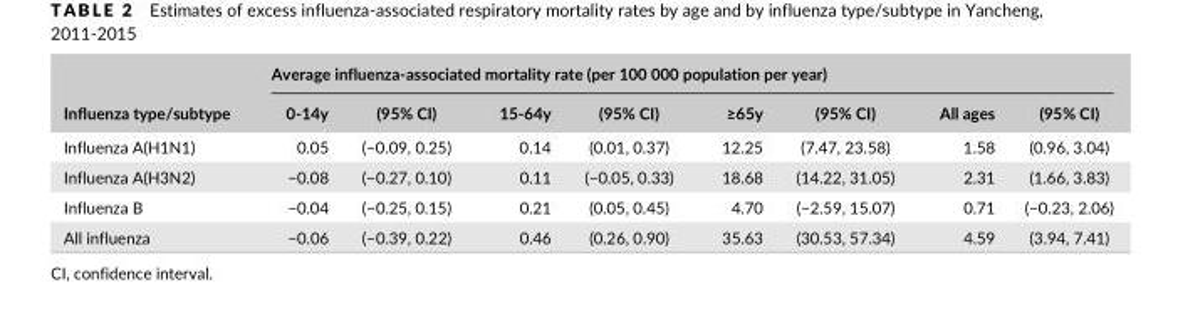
<table><thead><tr><td rowspan="2">Influenza type/subtype</td><td colspan="8">Average influenza- associated mortality rate (per 100 000 population per year)</td></tr><tr><td>0- 14y</td><td>(95% CI)</td><td>15- 64y</td><td>(95% CI)</td><td>≥65y</td><td>(95% CI)</td><td>All ages</td><td>(95% CI)</td></tr></thead><tbody><tr><td>Influenza A(H1N1)</td><td>0.05</td><td>(−0.09, 0.25)</td><td>0.14</td><td>(0.01, 0.37)</td><td>12.25</td><td>(7.47, 23.58)</td><td>1.58</td><td>(0.96, 3.04)</td></tr><tr><td>Influenza A(H3N2)</td><td>−0.08</td><td>(−0.27, 0.10)</td><td>0.11</td><td>(−0.05, 0.33)</td><td>18.68</td><td>(14.22, 31.05)</td><td>2.31</td><td>(1.66, 3.83)</td></tr><tr><td>Influenza B</td><td>−0.04</td><td>(−0.25, 0.15)</td><td>0.21</td><td>(0.05, 0.45)</td><td>4.70</td><td>(−2.59, 15.07)</td><td>0.71</td><td>(−0.23, 2.06)</td></tr><tr><td>All influenza</td><td>−0.06</td><td>(−0.39, 0.22)</td><td>0.46</td><td>(0.26, 0.90)</td><td>35.63</td><td>(30.53, 57.34)</td><td>4.59</td><td>(3.94, 7.41)</td></tr></tbody></table>